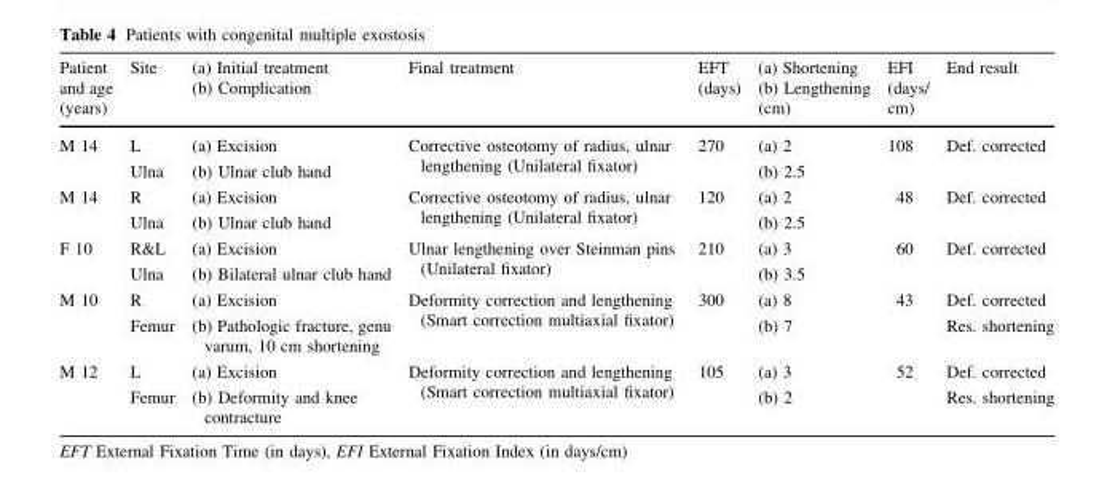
<table><thead><tr><td>Patient and age (years)</td><td>Site</td><td>(a) Initial treatment (b) Complication</td><td>Final treatment</td><td>EFT (days)</td><td>(a) Shortening (b) Lengthening (cm)</td><td>EFI (days/ cm)</td><td>End result</td></tr></thead><tbody><tr><td>M 14</td><td>L Ulna</td><td>(a) Excision (b) Ulnar club hand</td><td>Corrective osteotomy of radius, ulnar lengthening (Unilateral fixator)</td><td>270</td><td>(a) 2 (b) 2.5</td><td>108</td><td>Def. corrected</td></tr><tr><td>M 14</td><td>R Ulna</td><td>(a) Excision (b) Ulnar club hand</td><td>Corrective osteotomy of radius, ulnar lengthening (Unilateral fixator)</td><td>120</td><td>(a) 2 (b) 2.5</td><td>48</td><td>Def. corrected</td></tr><tr><td>F 10</td><td>R&amp;L Ulna</td><td>(a) Excision (b) Bilateral ulnar club hand</td><td>Ulnar lengthening over Steinman pins (Unilateral fixator)</td><td>210</td><td>(a) 3 (b) 3.5</td><td>60</td><td>Def. corrected</td></tr><tr><td>M 10</td><td>R Femur</td><td>(a) Excision (b) Pathologic fracture, genu varum, 10 cm shortening</td><td>Deformity correction and lengthening (Smart correction multiaxial fixator)</td><td>300</td><td>(a) 8 (b) 7</td><td>43</td><td>Def. corrected Res. shortening</td></tr><tr><td>M 12</td><td>L Femur</td><td>(a) Excision (b) Deformity and knee contracture</td><td>Deformity correction and lengthening (Smart correction multiaxial fixator)</td><td>105</td><td>(a) 3 (b) 2</td><td>52</td><td>Def. corrected Res. shortening</td></tr></tbody></table>